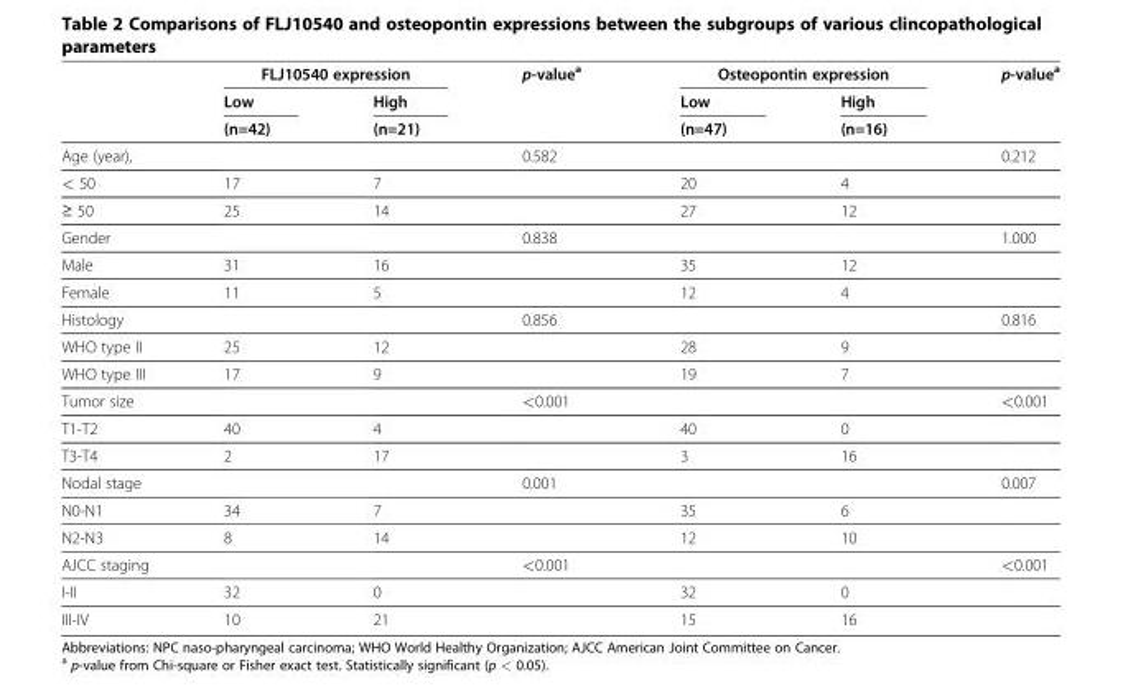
<table><thead><tr><td rowspan="3"></td><td colspan="2">FLJ10540 expression</td><td rowspan="3">p-value<sup>a</sup></td><td colspan="2">Osteopontin expression</td><td rowspan="3">p-value<sup>a</sup></td></tr><tr><td rowspan="2">Low (n=42)</td><td rowspan="2">High (n=21)</td><td rowspan="2">Low (n=47)</td><td rowspan="2">High (n=16)</td></tr><tr></tr></thead><tbody><tr><td>Age (year),</td><td></td><td></td><td>0.582</td><td></td><td></td><td>0.212</td></tr><tr><td>&lt; 50</td><td>17</td><td>7</td><td></td><td>20</td><td>4</td><td></td></tr><tr><td>≥ 50</td><td>25</td><td>14</td><td></td><td>27</td><td>12</td><td></td></tr><tr><td>Gender</td><td></td><td></td><td>0.838</td><td></td><td></td><td>1.000</td></tr><tr><td>Male</td><td>31</td><td>16</td><td></td><td>35</td><td>12</td><td></td></tr><tr><td>Female</td><td>11</td><td>5</td><td></td><td>12</td><td>4</td><td></td></tr><tr><td>Histology</td><td></td><td></td><td>0.856</td><td></td><td></td><td>0.816</td></tr><tr><td>WHO type II</td><td>25</td><td>12</td><td></td><td>28</td><td>9</td><td></td></tr><tr><td>WHO type III</td><td>17</td><td>9</td><td></td><td>19</td><td>7</td><td></td></tr><tr><td>Tumor size</td><td></td><td></td><td>&lt;0.001</td><td></td><td></td><td>&lt;0.001</td></tr><tr><td>T1-T2</td><td>40</td><td>4</td><td></td><td>40</td><td>0</td><td></td></tr><tr><td>T3-T4</td><td>2</td><td>17</td><td></td><td>3</td><td>16</td><td></td></tr><tr><td>Nodal stage</td><td></td><td></td><td>0.001</td><td></td><td></td><td>0.007</td></tr><tr><td>N0-N1</td><td>34</td><td>7</td><td></td><td>35</td><td>6</td><td></td></tr><tr><td>N2-N3</td><td>8</td><td>14</td><td></td><td>12</td><td>10</td><td></td></tr><tr><td>AJCC staging</td><td></td><td></td><td>&lt;0.001</td><td></td><td></td><td>&lt;0.001</td></tr><tr><td>I-II</td><td>32</td><td>0</td><td></td><td>32</td><td>0</td><td></td></tr><tr><td>III-IV</td><td>10</td><td>21</td><td></td><td>15</td><td>16</td><td></td></tr></tbody></table>